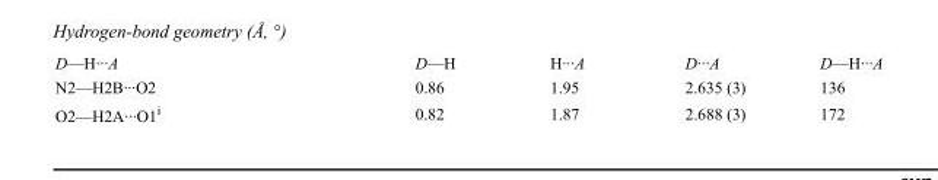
<table><tbody><tr><td>D—H···A</td><td>D—H</td><td>H···A</td><td>D···A</td><td>D—H···A</td></tr><tr><td>N2—H2B···O2</td><td>0.86</td><td>1.95</td><td>2.635 (3)</td><td>136</td></tr><tr><td>O2—H2A···O1<sup>i</sup></td><td>0.82</td><td>1.87</td><td>2.688 (3)</td><td>172</td></tr></tbody></table>